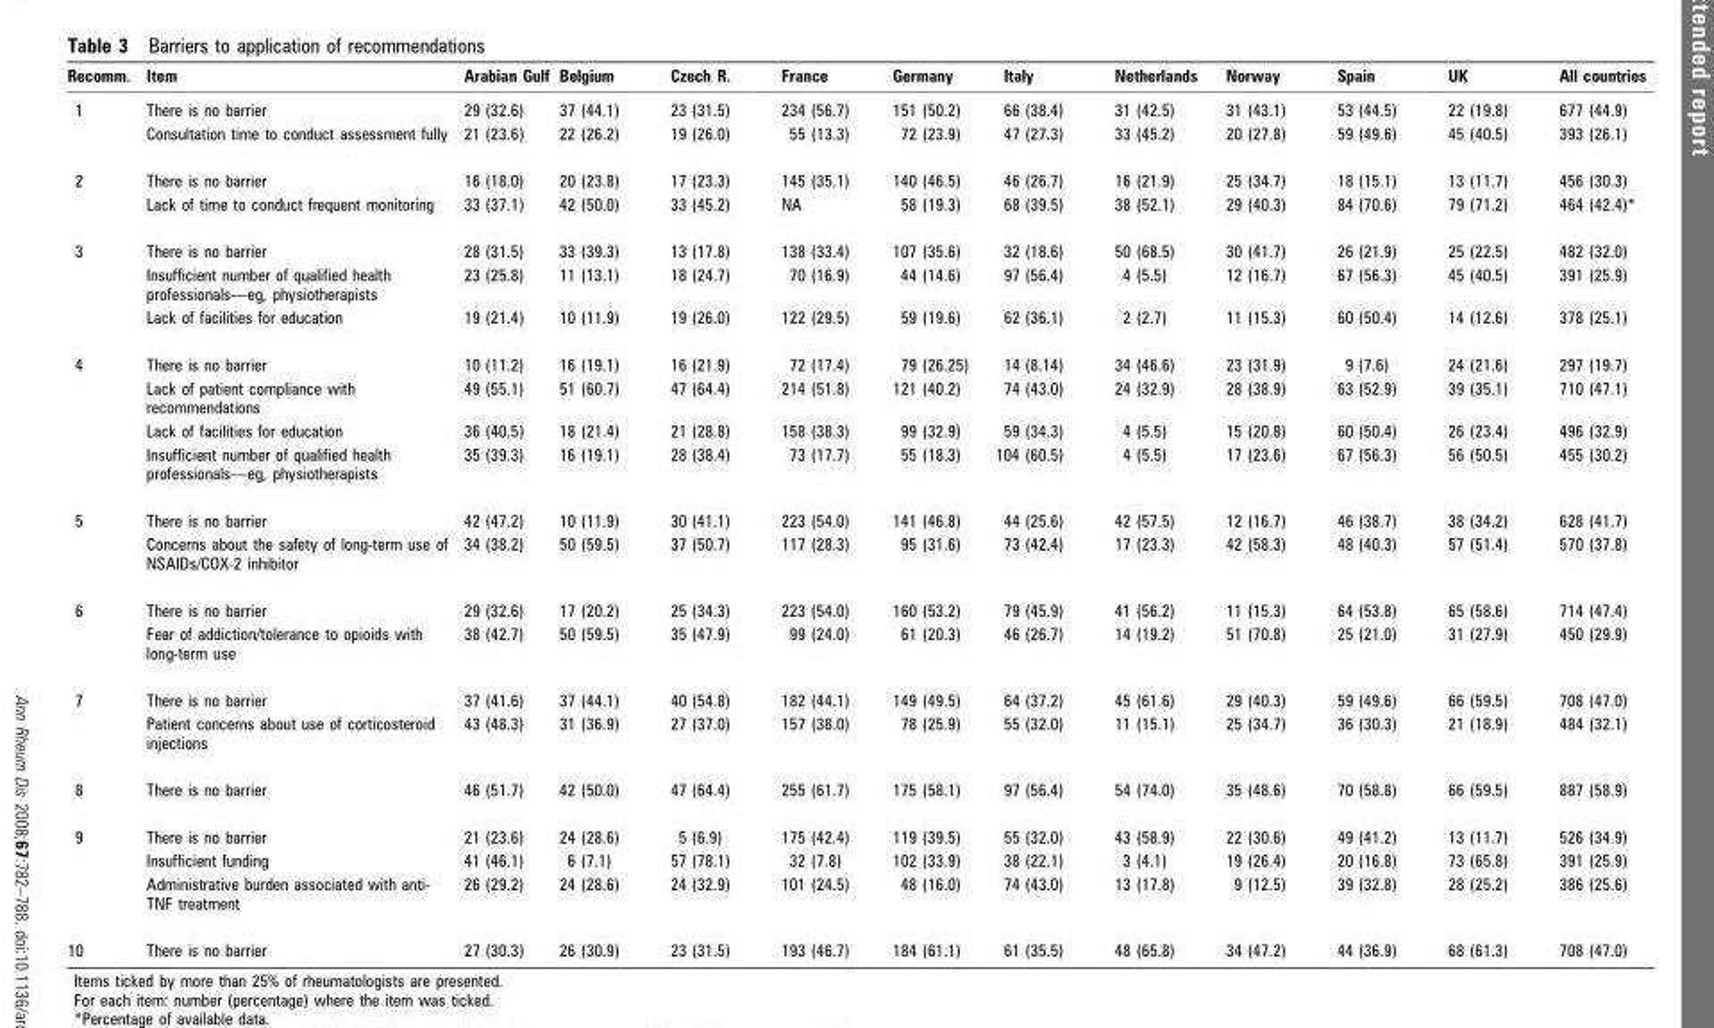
<table><thead><tr><td>Recomm.</td><td>Item</td><td>Arabian Gulf</td><td>Belgium</td><td>Czech R.</td><td>France</td><td>Germany</td><td>Italy</td><td>Netherlands</td><td>Norway</td><td>Spain</td><td>UK</td><td>All countries</td></tr></thead><tbody><tr><td rowspan="2">1</td><td>There is no barrier</td><td>29 (32.6)</td><td>37 (44.1)</td><td>23 (31.5)</td><td>234 (56.7)</td><td>151 (50.2)</td><td>66 (38.4)</td><td>31 (42.5)</td><td>31 (43.1)</td><td>53 (44.5)</td><td>22 (19.8)</td><td>677 (44.9)</td></tr><tr><td>Consultation time to conduct assessment fully</td><td>21 (23.6)</td><td>22 (26.2)</td><td>19 (26.0)</td><td>55 (13.3)</td><td>72 (23.9)</td><td>47 (27.3)</td><td>33 (45.2)</td><td>20 (27.8)</td><td>59 (49.6)</td><td>45 (40.5)</td><td>393 (26.1)</td></tr><tr><td rowspan="2">2</td><td>There is no barrier</td><td>16 (18.0)</td><td>20 (23.8)</td><td>17 (23.3)</td><td>145 (35.1)</td><td>140 (46.5)</td><td>46 (26.7)</td><td>16 (21.9)</td><td>25 (34.7)</td><td>18 (15.1)</td><td>13 (11.7)</td><td>456 (30.3)</td></tr><tr><td>Lack of time to conduct frequent monitoring</td><td>33 (37.1)</td><td>42 (50.0)</td><td>33 (45.2)</td><td>NA</td><td>58 (19.3)</td><td>68 (39.5)</td><td>38 (52.1)</td><td>29 (40.3)</td><td>84 (70.6)</td><td>79 (71.2)</td><td>464 (42.4)*</td></tr><tr><td rowspan="3">3</td><td>There is no barrier</td><td>28 (31.5)</td><td>33 (39.3)</td><td>13 (17.8)</td><td>138 (33.4)</td><td>107 (35.6)</td><td>32 (18.6)</td><td>50 (68.5)</td><td>30 (41.7)</td><td>26 (21.9)</td><td>25 (22.5)</td><td>482 (32.0)</td></tr><tr><td>Insufficient number of qualified health professionals—eg, physiotherapists</td><td>23 (25.8)</td><td>11 (13.1)</td><td>18 (24.7)</td><td>70 (16.9)</td><td>44 (14.6)</td><td>97 (56.4)</td><td>4 (5.5)</td><td>12 (16.7)</td><td>67 (56.3)</td><td>45 (40.5)</td><td>391 (25.9)</td></tr><tr><td>Lack of facilities for education</td><td>19 (21.4)</td><td>10 (11.9)</td><td>19 (26.0)</td><td>122 (29.5)</td><td>59 (19.6)</td><td>62 (36.1)</td><td>2 (2.7)</td><td>11 (15.3)</td><td>60 (50.4)</td><td>14 (12.6)</td><td>378 (25.1)</td></tr><tr><td rowspan="4">4</td><td>There is no barrier</td><td>10 (11.2)</td><td>16 (19.1)</td><td>16 (21.9)</td><td>72 (17.4)</td><td>79 (26.25)</td><td>14 (8.14)</td><td>34 (46.6)</td><td>23 (31.9)</td><td>9 (7.6)</td><td>24 (21.6)</td><td>297 (19.7)</td></tr><tr><td>Lack of patient compliance with recommendations</td><td>49 (55.1)</td><td>51 (60.7)</td><td>47 (64.4)</td><td>214 (51.8)</td><td>121 (40.2)</td><td>74 (43.0)</td><td>24 (32.9)</td><td>28 (38.9)</td><td>63 (52.9)</td><td>39 (35.1)</td><td>710 (47.1)</td></tr><tr><td>Lack of facilities for education</td><td>36 (40.5)</td><td>18 (21.4)</td><td>21 (28.8)</td><td>158 (38.3)</td><td>99 (32.9)</td><td>59 (34.3)</td><td>4 (5.5)</td><td>15 (20.8)</td><td>60 (50.4)</td><td>26 (23.4)</td><td>496 (32.9)</td></tr><tr><td>Insufficient number of qualified health professionals—eg, physiotherapists</td><td>35 (39.3)</td><td>16 (19.1)</td><td>28 (38.4)</td><td>73 (17.7)</td><td>55 (18.3)</td><td>104 (60.5)</td><td>4 (5.5)</td><td>17 (23.6)</td><td>67 (56.3)</td><td>56 (50.5)</td><td>455 (30.2)</td></tr><tr><td rowspan="2">5</td><td>There is no barrier</td><td>42 (47.2)</td><td>10 (11.9)</td><td>30 (41.1)</td><td>223 (54.0)</td><td>141 (46.8)</td><td>44 (25.6)</td><td>42 (57.5)</td><td>12 (16.7)</td><td>46 (38.7)</td><td>38 (34.2)</td><td>628 (41.7)</td></tr><tr><td>Concerns about the safety of long-term use of NSAIDs/COX-2 inhibitor</td><td>34 (38.2)</td><td>50 (59.5)</td><td>37 (50.7)</td><td>117 (28.3)</td><td>95 (31.6)</td><td>73 (42.4)</td><td>17 (23.3)</td><td>42 (58.3)</td><td>48 (40.3)</td><td>57 (51.4)</td><td>570 (37.8)</td></tr><tr><td rowspan="2">6</td><td>There is no barrier</td><td>29 (32.6)</td><td>17 (20.2)</td><td>25 (34.3)</td><td>223 (54.0)</td><td>160 (53.2)</td><td>79 (45.9)</td><td>41 (56.2)</td><td>11 (15.3)</td><td>64 (53.8)</td><td>65 (58.6)</td><td>714 (47.4)</td></tr><tr><td>Fear of addiction/tolerance to opioids with long-term use</td><td>38 (42.7)</td><td>50 (59.5)</td><td>35 (47.9)</td><td>99 (24.0)</td><td>61 (20.3)</td><td>46 (26.7)</td><td>14 (19.2)</td><td>51 (70.8)</td><td>25 (21.0)</td><td>31 (27.9)</td><td>450 (29.9)</td></tr><tr><td rowspan="2">7</td><td>There is no barrier</td><td>37 (41.6)</td><td>37 (44.1)</td><td>40 (54.8)</td><td>182 (44.1)</td><td>149 (49.5)</td><td>64 (37.2)</td><td>45 (61.6)</td><td>29 (40.3)</td><td>59 (49.6)</td><td>66 (59.5)</td><td>708 (47.0)</td></tr><tr><td>Patient concerns about use of corticosteroid injections</td><td>43 (48.3)</td><td>31 (36.9)</td><td>27 (37.0)</td><td>157 (38.0)</td><td>78 (25.9)</td><td>55 (32.0)</td><td>11 (15.1)</td><td>25 (34.7)</td><td>36 (30.3)</td><td>21 (18.9)</td><td>484 (32.1)</td></tr><tr><td>8</td><td>There is no barrier</td><td>46 (51.7)</td><td>42 (50.0)</td><td>47 (64.4)</td><td>255 (61.7)</td><td>175 (58.1)</td><td>97 (56.4)</td><td>54 (74.0)</td><td>35 (48.6)</td><td>70 (58.8)</td><td>66 (59.5)</td><td>887 (58.9)</td></tr><tr><td rowspan="3">9</td><td>There is no barrier</td><td>21 (23.6)</td><td>24 (28.6)</td><td>5 (6.9)</td><td>175 (42.4)</td><td>119 (39.5)</td><td>55 (32.0)</td><td>43 (58.9)</td><td>22 (30.6)</td><td>49 (41.2)</td><td>13 (11.7)</td><td>526 (34.9)</td></tr><tr><td>Insufficient funding</td><td>41 (46.1)</td><td>6 (7.1)</td><td>57 (78.1)</td><td>32 (7.8)</td><td>102 (33.9)</td><td>38 (22.1)</td><td>3 (4.1)</td><td>19 (26.4)</td><td>20 (16.8)</td><td>73 (65.8)</td><td>391 (25.9)</td></tr><tr><td>Administrative burden associated with anti- TNF treatment</td><td>26 (29.2)</td><td>24 (28.6)</td><td>24 (32.9)</td><td>101 (24.5)</td><td>48 (16.0)</td><td>74 (43.0)</td><td>13 (17.8)</td><td>9 (12.5)</td><td>39 (32.8)</td><td>28 (25.2)</td><td>386 (25.6)</td></tr><tr><td>10</td><td>There is no barrier</td><td>27 (30.3)</td><td>26 (30.9)</td><td>23 (31.5)</td><td>193 (46.7)</td><td>184 (61.1)</td><td>61 (35.5)</td><td>48 (65.8)</td><td>34 (47.2)</td><td>44 (36.9)</td><td>68 (61.3)</td><td>708 (47.0)</td></tr></tbody></table>